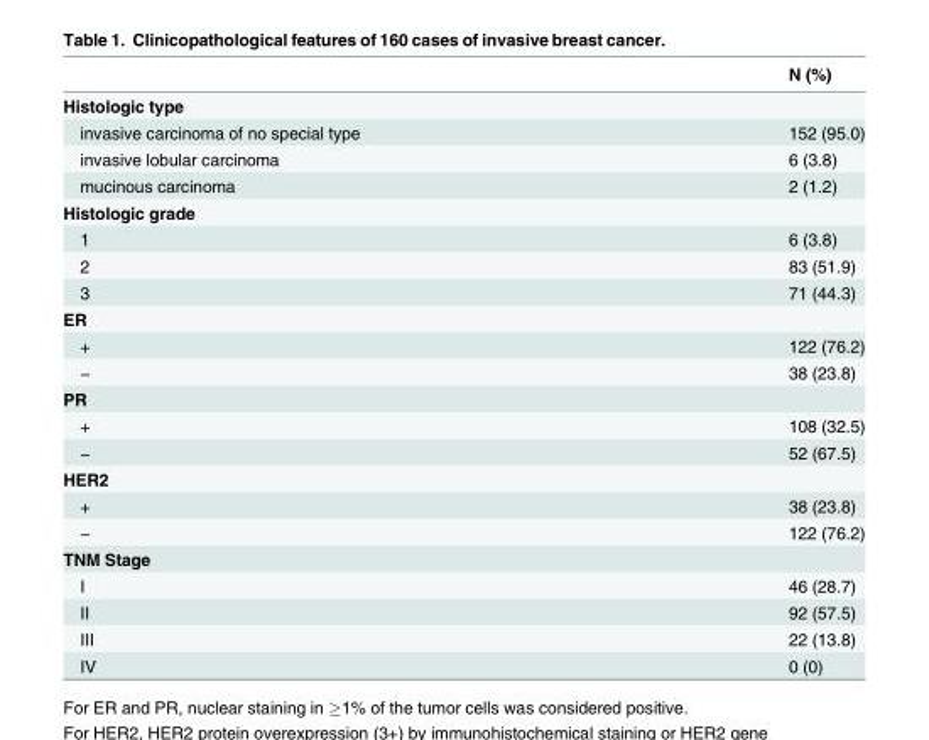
<table><thead><tr><td></td><td>N (%)</td></tr></thead><tbody><tr><td colspan="2">Histologic type</td></tr><tr><td>invasive carcinoma of no special type</td><td>152 (95.0)</td></tr><tr><td>invasive lobular carcinoma</td><td>6 (3.8)</td></tr><tr><td>mucinous carcinoma</td><td>2 (1.2)</td></tr><tr><td colspan="2">Histologic grade</td></tr><tr><td>1</td><td>6 (3.8)</td></tr><tr><td>2</td><td>83 (51.9)</td></tr><tr><td>3</td><td>71 (44.3)</td></tr><tr><td colspan="2">ER</td></tr><tr><td>+</td><td>122 (76.2)</td></tr><tr><td>−</td><td>38 (23.8)</td></tr><tr><td colspan="2">PR</td></tr><tr><td>+</td><td>108 (32.5)</td></tr><tr><td>−</td><td>52 (67.5)</td></tr><tr><td colspan="2">HER2</td></tr><tr><td>+</td><td>38 (23.8)</td></tr><tr><td>−</td><td>122 (76.2)</td></tr><tr><td colspan="2">TNM Stage</td></tr><tr><td>I</td><td>46 (28.7)</td></tr><tr><td>II</td><td>92 (57.5)</td></tr><tr><td>III</td><td>22 (13.8)</td></tr><tr><td>IV</td><td>0 (0)</td></tr></tbody></table>